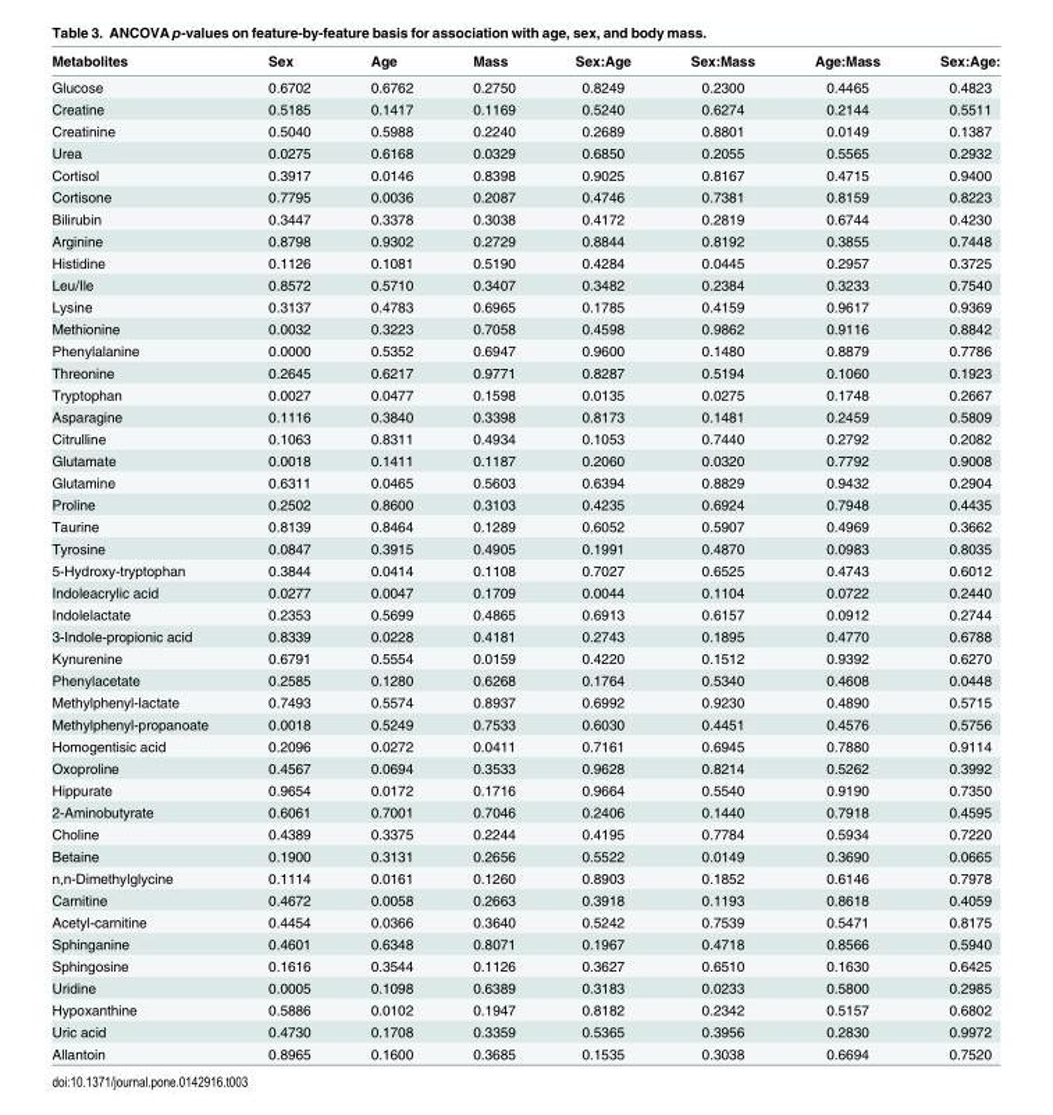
<table><thead><tr><td>Metabolites</td><td>Sex</td><td>Age</td><td>Mass</td><td>Sex:Age</td><td>Sex:Mass</td><td>Age:Mass</td><td>Sex:Age:</td></tr></thead><tbody><tr><td>Glucose</td><td>0.6702</td><td>0.6762</td><td>0.2750</td><td>0.8249</td><td>0.2300</td><td>0.4465</td><td>0.4823</td></tr><tr><td>Creatine</td><td>0.5185</td><td>0.1417</td><td>0.1169</td><td>0.5240</td><td>0.6274</td><td>0.2144</td><td>0.5511</td></tr><tr><td>Creatinine</td><td>0.5040</td><td>0.5988</td><td>0.2240</td><td>0.2689</td><td>0.8801</td><td>0.0149</td><td>0.1387</td></tr><tr><td>Urea</td><td>0.0275</td><td>0.6168</td><td>0.0329</td><td>0.6850</td><td>0.2055</td><td>0.5565</td><td>0.2932</td></tr><tr><td>Cortisol</td><td>0.3917</td><td>0.0146</td><td>0.8398</td><td>0.9025</td><td>0.8167</td><td>0.4715</td><td>0.9400</td></tr><tr><td>Cortisone</td><td>0.7795</td><td>0.0036</td><td>0.2087</td><td>0.4746</td><td>0.7381</td><td>0.8159</td><td>0.8223</td></tr><tr><td>Bilirubin</td><td>0.3447</td><td>0.3378</td><td>0.3038</td><td>0.4172</td><td>0.2819</td><td>0.6744</td><td>0.4230</td></tr><tr><td>Arginine</td><td>0.8798</td><td>0.9302</td><td>0.2729</td><td>0.8844</td><td>0.8192</td><td>0.3855</td><td>0.7448</td></tr><tr><td>Histidine</td><td>0.1126</td><td>0.1081</td><td>0.5190</td><td>0.4284</td><td>0.0445</td><td>0.2957</td><td>0.3725</td></tr><tr><td>Leu/Ile</td><td>0.8572</td><td>0.5710</td><td>0.3407</td><td>0.3482</td><td>0.2384</td><td>0.3233</td><td>0.7540</td></tr><tr><td>Lysine</td><td>0.3137</td><td>0.4783</td><td>0.6965</td><td>0.1785</td><td>0.4159</td><td>0.9617</td><td>0.9369</td></tr><tr><td>Methionine</td><td>0.0032</td><td>0.3223</td><td>0.7058</td><td>0.4598</td><td>0.9862</td><td>0.9116</td><td>0.8842</td></tr><tr><td>Phenylalanine</td><td>0.0000</td><td>0.5352</td><td>0.6947</td><td>0.9600</td><td>0.1480</td><td>0.8879</td><td>0.7786</td></tr><tr><td>Threonine</td><td>0.2645</td><td>0.6217</td><td>0.9771</td><td>0.8287</td><td>0.5194</td><td>0.1060</td><td>0.1923</td></tr><tr><td>Tryptophan</td><td>0.0027</td><td>0.0477</td><td>0.1598</td><td>0.0135</td><td>0.0275</td><td>0.1748</td><td>0.2667</td></tr><tr><td>Asparagine</td><td>0.1116</td><td>0.3840</td><td>0.3398</td><td>0.8173</td><td>0.1481</td><td>0.2459</td><td>0.5809</td></tr><tr><td>Citrulline</td><td>0.1063</td><td>0.8311</td><td>0.4934</td><td>0.1053</td><td>0.7440</td><td>0.2792</td><td>0.2082</td></tr><tr><td>Glutamate</td><td>0.0018</td><td>0.1411</td><td>0.1187</td><td>0.2060</td><td>0.0320</td><td>0.7792</td><td>0.9008</td></tr><tr><td>Glutamine</td><td>0.6311</td><td>0.0465</td><td>0.5603</td><td>0.6394</td><td>0.8829</td><td>0.9432</td><td>0.2904</td></tr><tr><td>Proline</td><td>0.2502</td><td>0.8600</td><td>0.3103</td><td>0.4235</td><td>0.6924</td><td>0.7948</td><td>0.4435</td></tr><tr><td>Taurine</td><td>0.8139</td><td>0.8464</td><td>0.1289</td><td>0.6052</td><td>0.5907</td><td>0.4969</td><td>0.3662</td></tr><tr><td>Tyrosine</td><td>0.0847</td><td>0.3915</td><td>0.4905</td><td>0.1991</td><td>0.4870</td><td>0.0983</td><td>0.8035</td></tr><tr><td>5-Hydroxy-tryptophan</td><td>0.3844</td><td>0.0414</td><td>0.1108</td><td>0.7027</td><td>0.6525</td><td>0.4743</td><td>0.6012</td></tr><tr><td>Indoleacrylic acid</td><td>0.0277</td><td>0.0047</td><td>0.1709</td><td>0.0044</td><td>0.1104</td><td>0.0722</td><td>0.2440</td></tr><tr><td>Indolelactate</td><td>0.2353</td><td>0.5699</td><td>0.4865</td><td>0.6913</td><td>0.6157</td><td>0.0912</td><td>0.2744</td></tr><tr><td>3-Indole-propionic acid</td><td>0.8339</td><td>0.0228</td><td>0.4181</td><td>0.2743</td><td>0.1895</td><td>0.4770</td><td>0.6788</td></tr><tr><td>Kynurenine</td><td>0.6791</td><td>0.5554</td><td>0.0159</td><td>0.4220</td><td>0.1512</td><td>0.9392</td><td>0.6270</td></tr><tr><td>Phenylacetate</td><td>0.2585</td><td>0.1280</td><td>0.6268</td><td>0.1764</td><td>0.5340</td><td>0.4608</td><td>0.0448</td></tr><tr><td>Methylphenyl-lactate</td><td>0.7493</td><td>0.5574</td><td>0.8937</td><td>0.6992</td><td>0.9230</td><td>0.4890</td><td>0.5715</td></tr><tr><td>Methylphenyl-propanoate</td><td>0.0018</td><td>0.5249</td><td>0.7533</td><td>0.6030</td><td>0.4451</td><td>0.4576</td><td>0.5756</td></tr><tr><td>Homogentisic acid</td><td>0.2096</td><td>0.0272</td><td>0.0411</td><td>0.7161</td><td>0.6945</td><td>0.7880</td><td>0.9114</td></tr><tr><td>Oxoproline</td><td>0.4567</td><td>0.0694</td><td>0.3533</td><td>0.9628</td><td>0.8214</td><td>0.5262</td><td>0.3992</td></tr><tr><td>Hippurate</td><td>0.9654</td><td>0.0172</td><td>0.1716</td><td>0.9664</td><td>0.5540</td><td>0.9190</td><td>0.7350</td></tr><tr><td>2-Aminobutyrate</td><td>0.6061</td><td>0.7001</td><td>0.7046</td><td>0.2406</td><td>0.1440</td><td>0.7918</td><td>0.4595</td></tr><tr><td>Choline</td><td>0.4389</td><td>0.3375</td><td>0.2244</td><td>0.4195</td><td>0.7784</td><td>0.5934</td><td>0.7220</td></tr><tr><td>Betaine</td><td>0.1900</td><td>0.3131</td><td>0.2656</td><td>0.5522</td><td>0.0149</td><td>0.3690</td><td>0.0665</td></tr><tr><td>n,n-Dimethylglycine</td><td>0.1114</td><td>0.0161</td><td>0.1260</td><td>0.8903</td><td>0.1852</td><td>0.6146</td><td>0.7978</td></tr><tr><td>Carnitine</td><td>0.4672</td><td>0.0058</td><td>0.2663</td><td>0.3918</td><td>0.1193</td><td>0.8618</td><td>0.4059</td></tr><tr><td>Acetyl-carnitine</td><td>0.4454</td><td>0.0366</td><td>0.3640</td><td>0.5242</td><td>0.7539</td><td>0.5471</td><td>0.8175</td></tr><tr><td>Sphinganine</td><td>0.4601</td><td>0.6348</td><td>0.8071</td><td>0.1967</td><td>0.4718</td><td>0.8566</td><td>0.5940</td></tr><tr><td>Sphingosine</td><td>0.1616</td><td>0.3544</td><td>0.1126</td><td>0.3627</td><td>0.6510</td><td>0.1630</td><td>0.6425</td></tr><tr><td>Uridine</td><td>0.0005</td><td>0.1098</td><td>0.6389</td><td>0.3183</td><td>0.0233</td><td>0.5800</td><td>0.2985</td></tr><tr><td>Hypoxanthine</td><td>0.5886</td><td>0.0102</td><td>0.1947</td><td>0.8182</td><td>0.2342</td><td>0.5157</td><td>0.6802</td></tr><tr><td>Uric acid</td><td>0.4730</td><td>0.1708</td><td>0.3359</td><td>0.5365</td><td>0.3956</td><td>0.2830</td><td>0.9972</td></tr><tr><td>Allantoin</td><td>0.8965</td><td>0.1600</td><td>0.3685</td><td>0.1535</td><td>0.3038</td><td>0.6694</td><td>0.7520</td></tr></tbody></table>